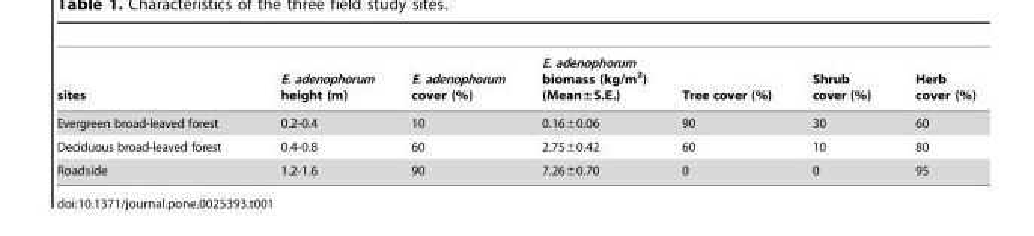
<table><thead><tr><td>sites</td><td>E. adenophorum height (m)</td><td>E. adenophorum cover (%)</td><td>E. adenophorum biomass (kg/m<sup>2</sup>) (Mean±S.E.)</td><td>Tree cover (%)</td><td>Shrub cover (%)</td><td>Herb cover (%)</td></tr></thead><tbody><tr><td>Evergreen broad-leaved forest</td><td>0.2-0.4</td><td>10</td><td>0.16±0.06</td><td>90</td><td>30</td><td>60</td></tr><tr><td>Deciduous broad-leaved forest</td><td>0.4-0.8</td><td>60</td><td>2.75±0.42</td><td>60</td><td>10</td><td>80</td></tr><tr><td>Roadside</td><td>1.2-1.6</td><td>90</td><td>7.26±0.70</td><td>0</td><td>0</td><td>95</td></tr></tbody></table>